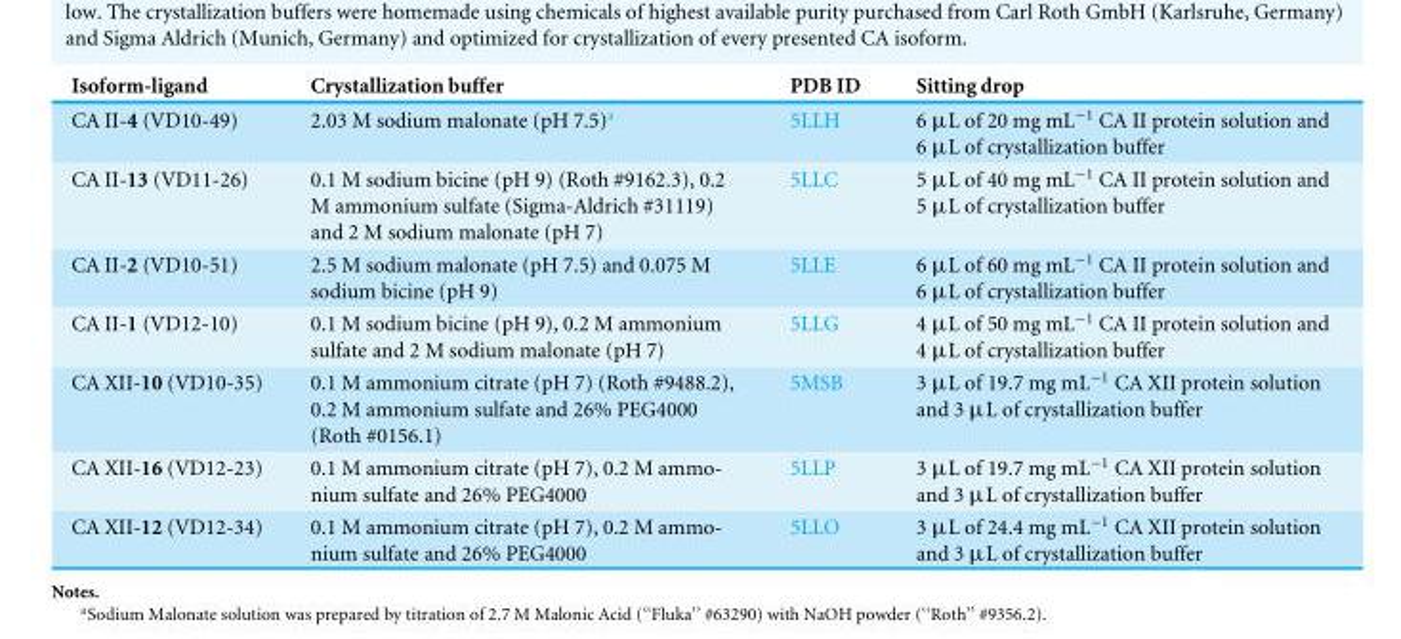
<table><thead><tr><td>Isoform-ligand</td><td>Crystallization buffer</td><td>PDB ID</td><td>Sitting drop</td></tr></thead><tbody><tr><td>CA II-4 (VD10-49)</td><td>2.03 M sodium malonate (pH 7.5)<sup>a</sup></td><td>5LLH</td><td>6 µL of 20 mg mL<sup>−1</sup> CA II protein solution and 6 µL of crystallization buffer</td></tr><tr><td>CA II-13 (VD11-26)</td><td>0.1 M sodium bicine (pH 9) (Roth #9162.3), 0.2 M ammonium sulfate (Sigma-Aldrich #31119) and 2 M sodium malonate (pH 7)</td><td>5LLC</td><td>5 µL of 40 mg mL<sup>−1</sup> CA II protein solution and 5 µL of crystallization buffer</td></tr><tr><td>CA II-2 (VD10-51)</td><td>2.5 M sodium malonate (pH 7.5) and 0.075 M sodium bicine (pH 9)</td><td>5LLE</td><td>6 µL of 60 mg mL<sup>−1</sup> CA II protein solution and 6 µL of crystallization buffer</td></tr><tr><td>CA II-1 (VD12-10)</td><td>0.1 M sodium bicine (pH 9), 0.2 M ammonium sulfate and 2 M sodium malonate (pH 7)</td><td>5LLG</td><td>4 µL of 50 mg mL<sup>−1</sup> CA II protein solution and 4 µL of crystallization buffer</td></tr><tr><td>CA XII-10 (VD10-35)</td><td>0.1 M ammonium citrate (pH 7) (Roth #9488.2), 0.2 M ammonium sulfate and 26% PEG4000 (Roth #0156.1)</td><td>5MSB</td><td>3 µL of 19.7 mg mL<sup>−1</sup> CA XII protein solution and 3 µL of crystallization buffer</td></tr><tr><td>CA XII-16 (VD12-23)</td><td>0.1 M ammonium citrate (pH 7), 0.2 M ammo- nium sulfate and 26% PEG4000</td><td>5LLP</td><td>3 µL of 19.7 mg mL<sup>−1</sup> CA XII protein solution and 3 µL of crystallization buffer</td></tr><tr><td>CA XII-12 (VD12-34)</td><td>0.1 M ammonium citrate (pH 7), 0.2 M ammo- nium sulfate and 26% PEG4000</td><td>5LLO</td><td>3 µL of 24.4 mg mL<sup>−1</sup> CA XII protein solution and 3 µL of crystallization buffer</td></tr></tbody></table>